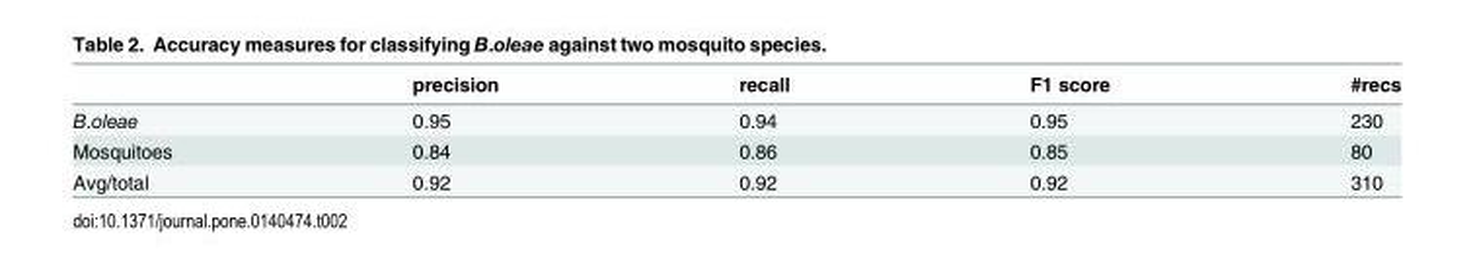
<table><thead><tr><td></td><td>precision</td><td>recall</td><td>F1 score</td><td>#recs</td></tr></thead><tbody><tr><td>B.oleae</td><td>0.95</td><td>0.94</td><td>0.95</td><td>230</td></tr><tr><td>Mosquitoes</td><td>0.84</td><td>0.86</td><td>0.85</td><td>80</td></tr><tr><td>Avg/total</td><td>0.92</td><td>0.92</td><td>0.92</td><td>310</td></tr></tbody></table>